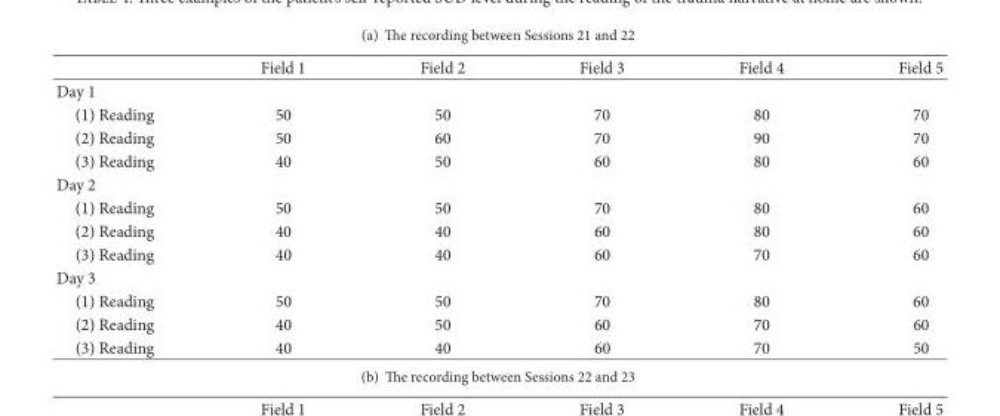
<table><thead><tr><td></td><td>Field 1</td><td>Field 2</td><td>Field 3</td><td>Field 4</td><td>Field 5</td></tr></thead><tbody><tr><td colspan="6">Day 1</td></tr><tr><td>(1) Reading</td><td>50</td><td>50</td><td>70</td><td>80</td><td>70</td></tr><tr><td>(2) Reading</td><td>50</td><td>60</td><td>70</td><td>90</td><td>70</td></tr><tr><td>(3) Reading</td><td>40</td><td>50</td><td>60</td><td>80</td><td>60</td></tr><tr><td colspan="6">Day 2</td></tr><tr><td>(1) Reading</td><td>50</td><td>50</td><td>70</td><td>80</td><td>60</td></tr><tr><td>(2) Reading</td><td>40</td><td>40</td><td>60</td><td>80</td><td>60</td></tr><tr><td>(3) Reading</td><td>40</td><td>40</td><td>60</td><td>70</td><td>60</td></tr><tr><td colspan="6">Day 3</td></tr><tr><td>(1) Reading</td><td>50</td><td>50</td><td>70</td><td>80</td><td>60</td></tr><tr><td>(2) Reading</td><td>40</td><td>50</td><td>60</td><td>70</td><td>60</td></tr><tr><td>(3) Reading</td><td>40</td><td>40</td><td>60</td><td>70</td><td>50</td></tr></tbody></table>